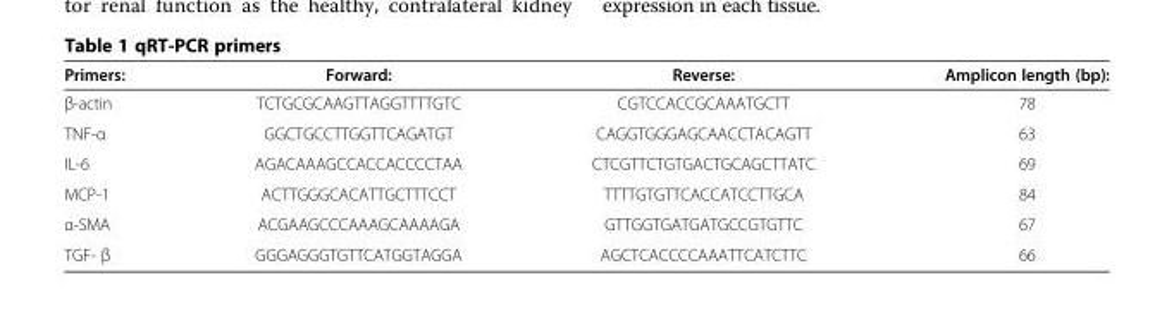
<table><thead><tr><td>Primers:</td><td>Forward:</td><td>Reverse:</td><td>Amplicon length (bp):</td></tr></thead><tbody><tr><td>β-actin</td><td>TCTGCGCAAGTTAGGTTTTGTC</td><td>CGTCCACCGCAAATGCTT</td><td>78</td></tr><tr><td>TNF-α</td><td>GGCTGCCTTGGTTCAGATGT</td><td>CAGGTGGGAGCAACCTACAGTT</td><td>63</td></tr><tr><td>IL-6</td><td>AGACAAAGCCACCACCCCTAA</td><td>CTCGTTCTGTGACTGCAGCTTATC</td><td>69</td></tr><tr><td>MCP-1</td><td>ACTTGGGCACATTGCTTTCCT</td><td>TTTTGTGTTCACCATCCTTGCA</td><td>84</td></tr><tr><td>α-SMA</td><td>ACGAAGCCCAAAGCAAAAGA</td><td>GTTGGTGATGATGCCGTGTTC</td><td>67</td></tr><tr><td>TGF- β</td><td>GGGAGGGTGTTCATGGTAGGA</td><td>AGCTCACCCCAAATTCATCTTC</td><td>66</td></tr></tbody></table>